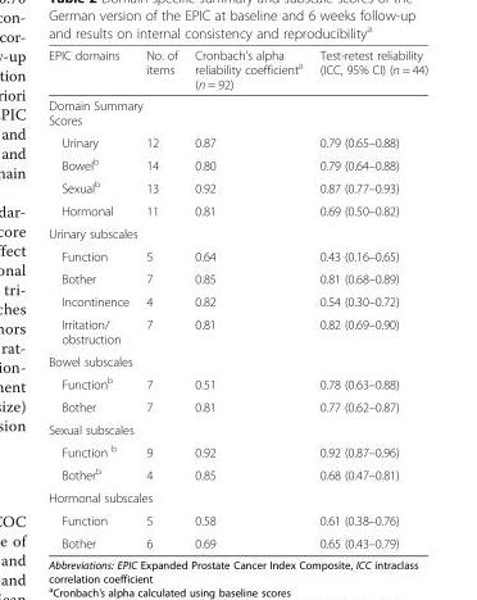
<table><thead><tr><td>EPIC domains</td><td>No. of items</td><td>Cronbach’s alpha reliability coefficient<sup>a</sup> (n = 92)</td><td>Test-retest reliability (ICC, 95% CI) (n = 44)</td></tr></thead><tbody><tr><td colspan="4">Domain Summary Scores</td></tr><tr><td>Urinary</td><td>12</td><td>0.87</td><td>0.79 (0.65–0.88)</td></tr><tr><td>Bowel<sup>b</sup></td><td>14</td><td>0.80</td><td>0.79 (0.64–0.88)</td></tr><tr><td>Sexual<sup>b</sup></td><td>13</td><td>0.92</td><td>0.87 (0.77–0.93)</td></tr><tr><td>Hormonal</td><td>11</td><td>0.81</td><td>0.69 (0.50–0.82)</td></tr><tr><td colspan="4">Urinary subscales</td></tr><tr><td>Function</td><td>5</td><td>0.64</td><td>0.43 (0.16–0.65)</td></tr><tr><td>Bother</td><td>7</td><td>0.85</td><td>0.81 (0.68–0.89)</td></tr><tr><td>Incontinence</td><td>4</td><td>0.82</td><td>0.54 (0.30–0.72)</td></tr><tr><td>Irritation/ obstruction</td><td>7</td><td>0.81</td><td>0.82 (0.69–0.90)</td></tr><tr><td colspan="4">Bowel subscales</td></tr><tr><td>Function<sup>b</sup></td><td>7</td><td>0.51</td><td>0.78 (0.63–0.88)</td></tr><tr><td>Bother</td><td>7</td><td>0.81</td><td>0.77 (0.62–0.87)</td></tr><tr><td colspan="4">Sexual subscales</td></tr><tr><td>Function <sup>b</sup></td><td>9</td><td>0.92</td><td>0.92 (0.87–0.96)</td></tr><tr><td>Bother<sup>b</sup></td><td>4</td><td>0.85</td><td>0.68 (0.47–0.81)</td></tr><tr><td colspan="4">Hormonal subscales</td></tr><tr><td>Function</td><td>5</td><td>0.58</td><td>0.61 (0.38–0.76)</td></tr><tr><td>Bother</td><td>6</td><td>0.69</td><td>0.65 (0.43–0.79)</td></tr></tbody></table>